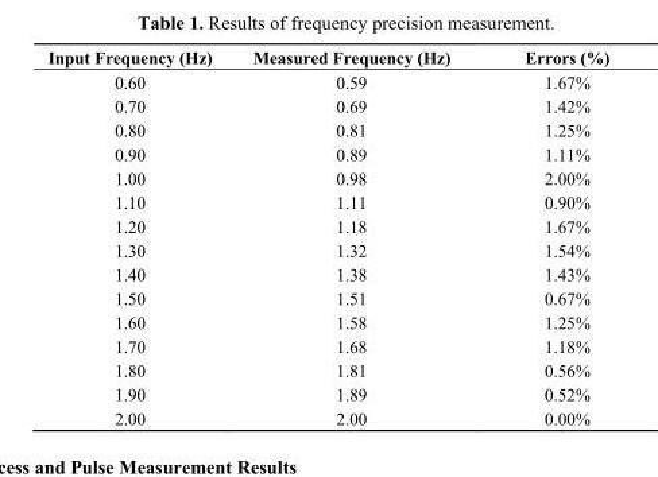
<table><thead><tr><td>Input Frequency (Hz)</td><td>Measured Frequency (Hz)</td><td>Errors (%)</td></tr></thead><tbody><tr><td>0.60</td><td>0.59</td><td>1.67%</td></tr><tr><td>0.70</td><td>0.69</td><td>1.42%</td></tr><tr><td>0.80</td><td>0.81</td><td>1.25%</td></tr><tr><td>0.90</td><td>0.89</td><td>1.11%</td></tr><tr><td>1.00</td><td>0.98</td><td>2.00%</td></tr><tr><td>1.10</td><td>1.11</td><td>0.90%</td></tr><tr><td>1.20</td><td>1.18</td><td>1.67%</td></tr><tr><td>1.30</td><td>1.32</td><td>1.54%</td></tr><tr><td>1.40</td><td>1.38</td><td>1.43%</td></tr><tr><td>1.50</td><td>1.51</td><td>0.67%</td></tr><tr><td>1.60</td><td>1.58</td><td>1.25%</td></tr><tr><td>1.70</td><td>1.68</td><td>1.18%</td></tr><tr><td>1.80</td><td>1.81</td><td>0.56%</td></tr><tr><td>1.90</td><td>1.89</td><td>0.52%</td></tr><tr><td>2.00</td><td>2.00</td><td>0.00%</td></tr></tbody></table>